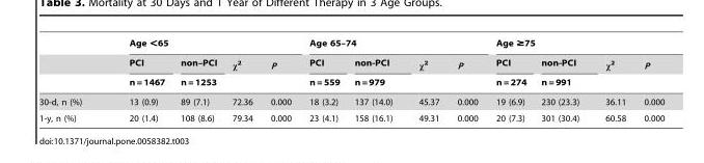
<table><thead><tr><td rowspan="3"></td><td colspan="4">Age &lt;65</td><td colspan="4">Age 65–74</td><td colspan="4">Age ≥75</td></tr><tr><td rowspan="2">PCI n = 1467</td><td rowspan="2">non–PCI n = 1253</td><td rowspan="2">x2</td><td rowspan="2">P</td><td rowspan="2">PCI n = 559</td><td rowspan="2">non-PCI n = 979</td><td rowspan="2">x2</td><td rowspan="2">P</td><td rowspan="2">PCI n = 274</td><td rowspan="2">non-PCI n = 991</td><td rowspan="2">x2</td><td rowspan="2">P</td></tr><tr></tr></thead><tbody><tr><td>30-d, n (%)</td><td>13 (0.9)</td><td>89 (7.1)</td><td>72.36</td><td>0.000</td><td>18 (3.2)</td><td>137 (14.0)</td><td>45.37</td><td>0.000</td><td>19 (6.9)</td><td>230 (23.3)</td><td>36.11</td><td>0.000</td></tr><tr><td>1-y, n (%)</td><td>20 (1.4)</td><td>108 (8.6)</td><td>79.34</td><td>0.000</td><td>23 (4.1)</td><td>158 (16.1)</td><td>49.31</td><td>0.000</td><td>20 (7.3)</td><td>301 (30.4)</td><td>60.58</td><td>0.000</td></tr></tbody></table>